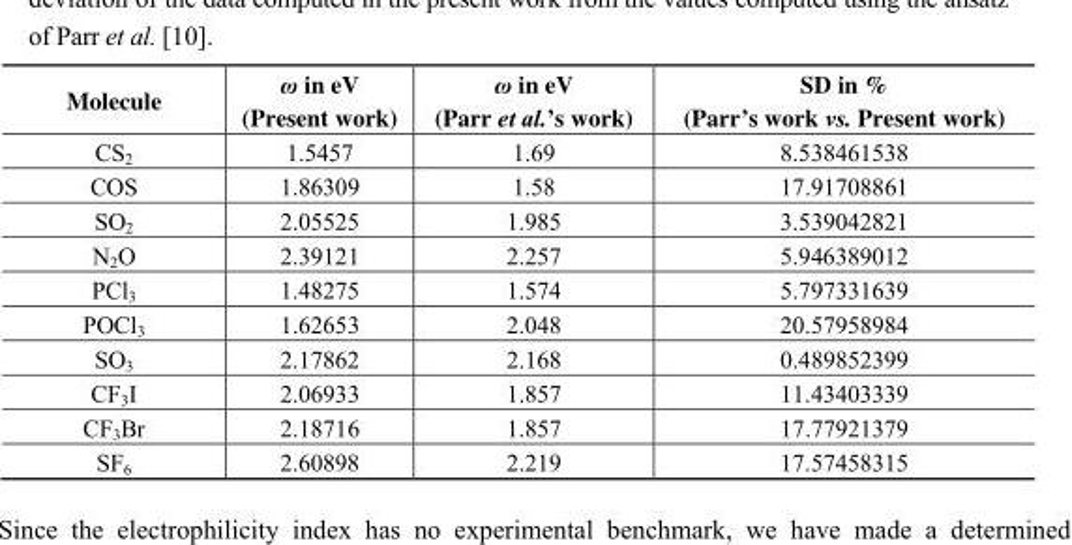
<table><thead><tr><td>Molecule</td><td>ω in eV (Present work)</td><td>ω in eV (Parr et al.’s work)</td><td>SD in % (Parr’s work vs. Present work)</td></tr></thead><tbody><tr><td>CS<sub>2</sub></td><td>1.5457</td><td>1.69</td><td>8.538461538</td></tr><tr><td>COS</td><td>1.86309</td><td>1.58</td><td>17.91708861</td></tr><tr><td>SO<sub>2</sub></td><td>2.05525</td><td>1.985</td><td>3.539042821</td></tr><tr><td>N<sub>2</sub>O</td><td>2.39121</td><td>2.257</td><td>5.946389012</td></tr><tr><td>PCl<sub>3</sub></td><td>1.48275</td><td>1.574</td><td>5.797331639</td></tr><tr><td>POCl<sub>3</sub></td><td>1.62653</td><td>2.048</td><td>20.57958984</td></tr><tr><td>SO<sub>3</sub></td><td>2.17862</td><td>2.168</td><td>0.489852399</td></tr><tr><td>CF<sub>3</sub>I</td><td>2.06933</td><td>1.857</td><td>11.43403339</td></tr><tr><td>CF<sub>3</sub>Br</td><td>2.18716</td><td>1.857</td><td>17.77921379</td></tr><tr><td>SF<sub>6</sub></td><td>2.60898</td><td>2.219</td><td>17.57458315</td></tr></tbody></table>